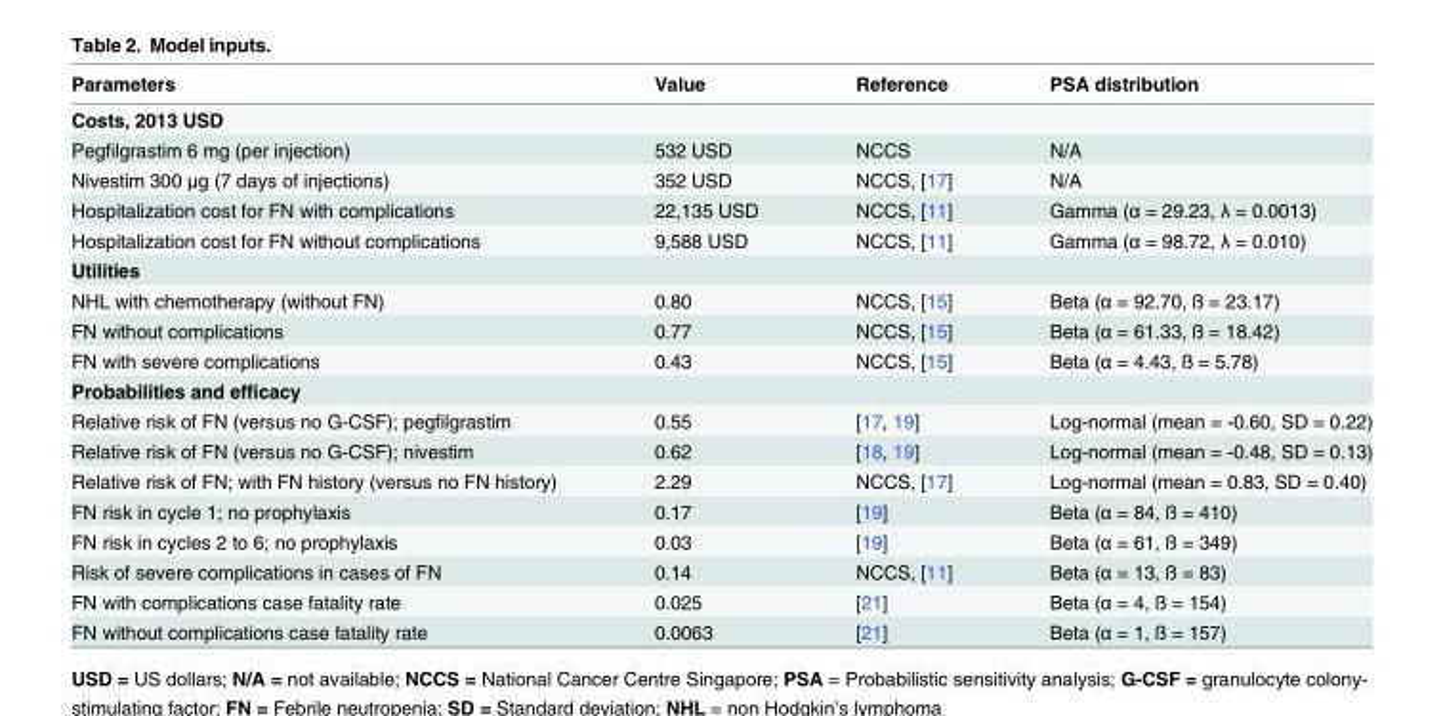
<table><thead><tr><td>Parameters</td><td>Value</td><td>Reference</td><td>PSA distribution</td></tr></thead><tbody><tr><td colspan="4">Costs, 2013 USD</td></tr><tr><td>Pegfilgrastim 6 mg (per injection)</td><td>532 USD</td><td>NCCS</td><td>N/A</td></tr><tr><td>Nivestim 300 μg (7 days of injections)</td><td>352 USD</td><td>NCCS, [17]</td><td>N/A</td></tr><tr><td>Hospitalization cost for FN with complications</td><td>22,135 USD</td><td>NCCS, [11]</td><td>Gamma (α = 29.23, λ = 0.0013)</td></tr><tr><td>Hospitalization cost for FN without complications</td><td>9,588 USD</td><td>NCCS, [11]</td><td>Gamma (α = 98.72, λ = 0.010)</td></tr><tr><td colspan="4">Utilities</td></tr><tr><td>NHL with chemotherapy (without FN)</td><td>0.80</td><td>NCCS, [15]</td><td>Beta (α = 92.70, ß = 23.17)</td></tr><tr><td>FN without complications</td><td>0.77</td><td>NCCS, [15]</td><td>Beta (α = 61.33, ß = 18.42)</td></tr><tr><td>FN with severe complications</td><td>0.43</td><td>NCCS, [15]</td><td>Beta (α = 4.43, ß = 5.78)</td></tr><tr><td colspan="4">Probabilities and efficacy</td></tr><tr><td>Relative risk of FN (versus no G-CSF); pegfilgrastim</td><td>0.55</td><td>[17, 19]</td><td>Log-normal (mean = -0.60, SD = 0.22)</td></tr><tr><td>Relative risk of FN (versus no G-CSF); nivestim</td><td>0.62</td><td>[18, 19]</td><td>Log-normal (mean = -0.48, SD = 0.13)</td></tr><tr><td>Relative risk of FN; with FN history (versus no FN history)</td><td>2.29</td><td>NCCS, [17]</td><td>Log-normal (mean = 0.83, SD = 0.40)</td></tr><tr><td>FN risk in cycle 1; no prophylaxis</td><td>0.17</td><td>[19]</td><td>Beta (α = 84, ß = 410)</td></tr><tr><td>FN risk in cycles 2 to 6; no prophylaxis</td><td>0.03</td><td>[19]</td><td>Beta (α = 61, ß = 349)</td></tr><tr><td>Risk of severe complications in cases of FN</td><td>0.14</td><td>NCCS, [11]</td><td>Beta (α = 13, ß = 83)</td></tr><tr><td>FN with complications case fatality rate</td><td>0.025</td><td>[21]</td><td>Beta (α = 4, ß = 154)</td></tr><tr><td>FN without complications case fatality rate</td><td>0.0063</td><td>[21]</td><td>Beta (α = 1, ß = 157)</td></tr></tbody></table>